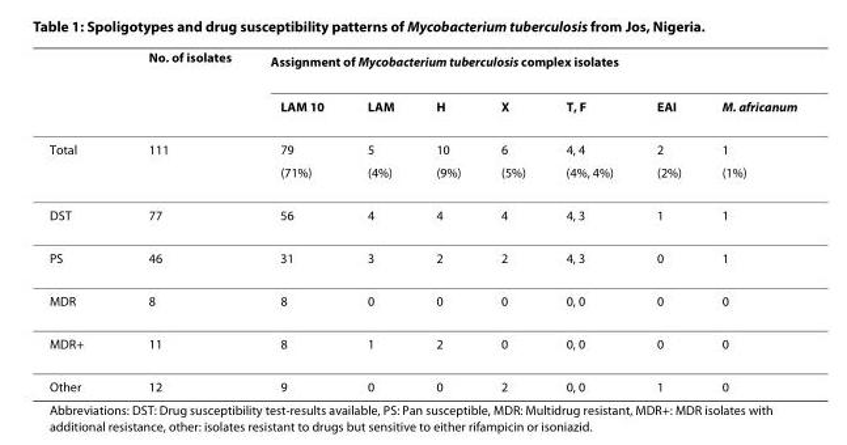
<table><thead><tr><td rowspan="2"></td><td rowspan="2">No. of isolates</td><td colspan="7">Assignment of Mycobacterium tuberculosis complex isolates</td></tr><tr><td>LAM 10</td><td>LAM</td><td>H</td><td>X</td><td>T, F</td><td>EAI</td><td>M. africanum</td></tr></thead><tbody><tr><td rowspan="2">Total</td><td>111</td><td>79</td><td>5</td><td>10</td><td>6</td><td>4, 4</td><td>2</td><td>1</td></tr><tr><td></td><td>(71%)</td><td>(4%)</td><td>(9%)</td><td>(5%)</td><td>(4%, 4%)</td><td>(2%)</td><td>(1%)</td></tr><tr><td>DST</td><td>77</td><td>56</td><td>4</td><td>4</td><td>4</td><td>4, 3</td><td>1</td><td>1</td></tr><tr><td>PS</td><td>46</td><td>31</td><td>3</td><td>2</td><td>2</td><td>4, 3</td><td>0</td><td>1</td></tr><tr><td>MDR</td><td>8</td><td>8</td><td>0</td><td>0</td><td>0</td><td>0, 0</td><td>0</td><td>0</td></tr><tr><td>MDR+</td><td>11</td><td>8</td><td>1</td><td>2</td><td>0</td><td>0, 0</td><td>0</td><td>0</td></tr><tr><td>Other</td><td>12</td><td>9</td><td>0</td><td>0</td><td>2</td><td>0, 0</td><td>1</td><td>0</td></tr></tbody></table>